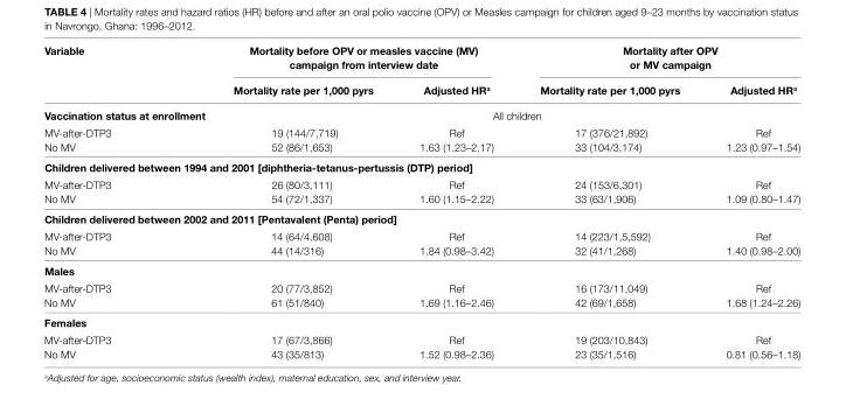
<table><thead><tr><td rowspan="2">Variable</td><td colspan="2">Mortality before OPV or measles vaccine (MV) campaign from interview date</td><td colspan="2">Mortality after OPV or MV campaign</td></tr><tr><td>Mortality rate per 1,000 pyrs</td><td>adjusted hr<sup>a</sup></td><td>Mortality rate per 1,000 pyrs</td><td>adjusted hr<sup>a</sup></td></tr></thead><tbody><tr><td>Vaccination status at enrollment</td><td colspan="4">All children</td></tr><tr><td>MV-after-DTP3</td><td>19 (144/7,719)</td><td>Ref</td><td>17 (376/21,892)</td><td>Ref</td></tr><tr><td>No MV</td><td>52 (86/1,653)</td><td>1.63 (1.23–2.17)</td><td>33 (104/3,174)</td><td>1.23 (0.97–1.54)</td></tr><tr><td colspan="5">children delivered between 1994 and 2001 [diphtheria-tetanus-pertussis (DTP) period]</td></tr><tr><td>MV-after-DTP3</td><td>26 (80/3,111)</td><td>Ref</td><td>24 (153/6,301)</td><td>Ref</td></tr><tr><td>No MV</td><td>54 (72/1,337)</td><td>1.60 (1.15–2.22)</td><td>33 (63/1,906)</td><td>1.09 (0.80–1.47)</td></tr><tr><td colspan="5">children delivered between 2002 and 2011 [Pentavalent (Penta) period]</td></tr><tr><td>MV-after-DTP3</td><td>14 (64/4,608)</td><td>Ref</td><td>14 (223/1,5,592)</td><td>Ref</td></tr><tr><td>No MV</td><td>44 (14/316)</td><td>1.84 (0.98–3.42)</td><td>32 (41/1,268)</td><td>1.40 (0.98–2.00)</td></tr><tr><td colspan="5">Males</td></tr><tr><td>MV-after-DTP3</td><td>20 (77/3,852)</td><td>Ref</td><td>16 (173/11,049)</td><td>Ref</td></tr><tr><td>No MV</td><td>61 (51/840)</td><td>1.69 (1.16–2.46)</td><td>42 (69/1,658)</td><td>1.68 (1.24–2.26)</td></tr><tr><td colspan="5">Females</td></tr><tr><td>MV-after-DTP3</td><td>17 (67/3,866)</td><td>Ref</td><td>19 (203/10,843)</td><td>Ref</td></tr><tr><td>No MV</td><td>43 (35/813)</td><td>1.52 (0.98–2.36)</td><td>23 (35/1,516)</td><td>0.81 (0.56–1.18)</td></tr></tbody></table>